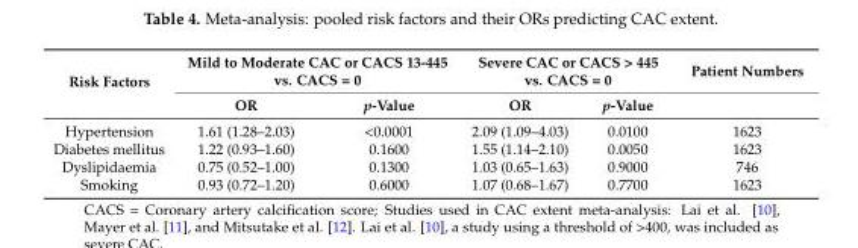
<table><thead><tr><td rowspan="2">Risk Factors</td><td colspan="2">Mild to Moderate CAC or CACS 13-445 vs. CACS = 0</td><td colspan="2">Severe CAC or CACS &gt; 445 vs. CACS = 0</td><td rowspan="2">Patient Numbers</td></tr><tr><td>OR</td><td>p-Value</td><td>OR</td><td>p-Value</td></tr></thead><tbody><tr><td>Hypertension</td><td>1.61 (1.28–2.03)</td><td>&lt;0.0001</td><td>2.09 (1.09–4.03)</td><td>0.0100</td><td>1623</td></tr><tr><td>Diabetes mellitus</td><td>1.22 (0.93–1.60)</td><td>0.1600</td><td>1.55 (1.14–2.10)</td><td>0.0050</td><td>1623</td></tr><tr><td>Dyslipidaemia</td><td>0.75 (0.52–1.00)</td><td>0.1300</td><td>1.03 (0.65–1.63)</td><td>0.9000</td><td>746</td></tr><tr><td>Smoking</td><td>0.93 (0.72–1.20)</td><td>0.6000</td><td>1.07 (0.68–1.67)</td><td>0.7700</td><td>1623</td></tr></tbody></table>